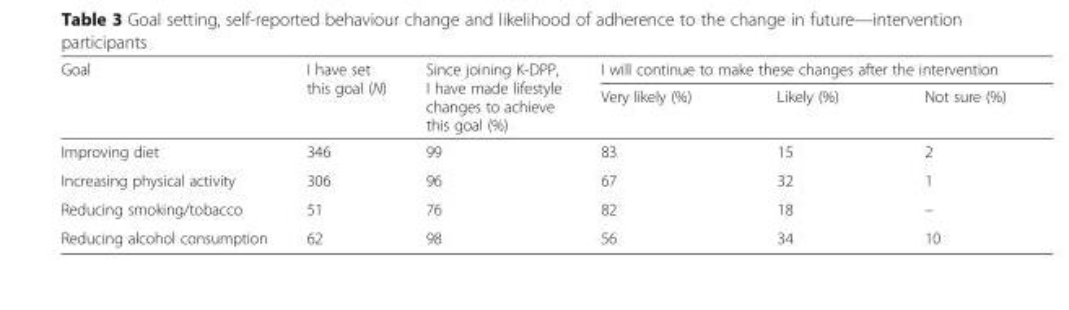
<table><thead><tr><td rowspan="2">Goal</td><td rowspan="2">I have set this goal (N)</td><td rowspan="2">Since joining K-DPP, I have made lifestyle changes to achieve this goal (%)</td><td colspan="3">I will continue to make these changes after the intervention</td></tr><tr><td>Very likely (%)</td><td>Likely (%)</td><td>Not sure (%)</td></tr></thead><tbody><tr><td>Improving diet</td><td>346</td><td>99</td><td>83</td><td>15</td><td>2</td></tr><tr><td>Increasing physical activity</td><td>306</td><td>96</td><td>67</td><td>32</td><td>1</td></tr><tr><td>Reducing smoking/tobacco</td><td>51</td><td>76</td><td>82</td><td>18</td><td>–</td></tr><tr><td>Reducing alcohol consumption</td><td>62</td><td>98</td><td>56</td><td>34</td><td>10</td></tr></tbody></table>